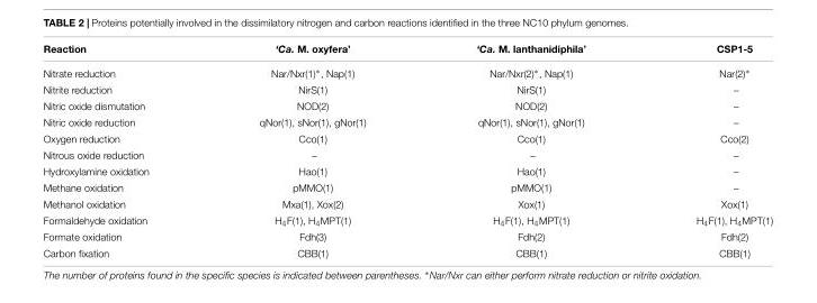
<table><thead><tr><td>Reaction</td><td>‘Ca. M. oxyfera’</td><td>‘Ca. M. lanthanidiphila’</td><td>CSP1-5</td></tr></thead><tbody><tr><td>Nitrate reduction</td><td>Nar/Nxr(1)∗, Nap(1)</td><td>Nar/Nxr(2)∗, Nap(1)</td><td>Nar(2)∗</td></tr><tr><td>Nitrite reduction</td><td>NirS(1)</td><td>NirS(1)</td><td>–</td></tr><tr><td>Nitric oxide dismutation</td><td>NOD(2)</td><td>NOD(2)</td><td>–</td></tr><tr><td>Nitric oxide reduction</td><td>qNor(1), sNor(1), gNor(1)</td><td>qNor(1), sNor(1), gNor(1)</td><td>–</td></tr><tr><td>Oxygen reduction</td><td>Cco(1)</td><td>Cco(1)</td><td>Cco(2)</td></tr><tr><td>Nitrous oxide reduction</td><td>–</td><td>–</td><td>–</td></tr><tr><td>Hydroxylamine oxidation</td><td>Hao(1)</td><td>Hao(1)</td><td>–</td></tr><tr><td>Methane oxidation</td><td>pMMO(1)</td><td>pMMO(1)</td><td>–</td></tr><tr><td>Methanol oxidation</td><td>Mxa(1), Xox(2)</td><td>Xox(1)</td><td>Xox(1)</td></tr><tr><td>Formaldehyde oxidation</td><td>H<sub>4</sub>F(1), H<sub>4</sub>MPT(1)</td><td>H<sub>4</sub>F(1), H<sub>4</sub>MPT(1)</td><td>H<sub>4</sub>F(1), H<sub>4</sub>MPT(1)</td></tr><tr><td>Formate oxidation</td><td>Fdh(3)</td><td>Fdh(2)</td><td>Fdh(2)</td></tr><tr><td>Carbon fixation</td><td>CBB(1)</td><td>CBB(1)</td><td>CBB(1)</td></tr></tbody></table>